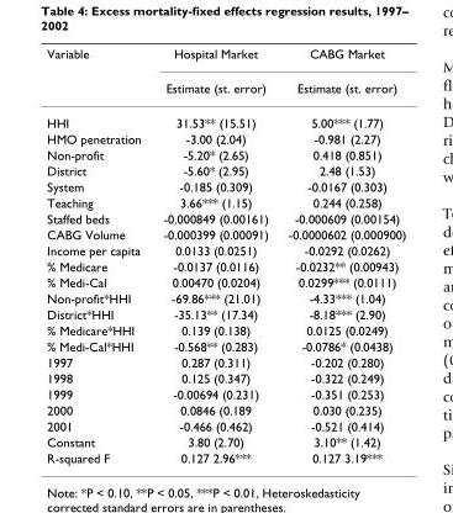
<table><thead><tr><td rowspan="2">Variable</td><td rowspan="2">Hospital Market Estimate (st. error)</td><td rowspan="2">CABG Market Estimate (st. error)</td></tr><tr></tr></thead><tbody><tr><td>HHI</td><td>31.53** (15.51)</td><td>5.00*** (1.77)</td></tr><tr><td>HMO penetration</td><td>-3.00 (2.04)</td><td>-0.981 (2.27)</td></tr><tr><td>Non-profit</td><td>-5.20* (2.65)</td><td>0.418 (0.851)</td></tr><tr><td>District</td><td>-5.60* (2.95)</td><td>2.48 (1.53)</td></tr><tr><td>System</td><td>-0.185 (0.309)</td><td>-0.0167 (0.303)</td></tr><tr><td>Teaching</td><td>3.66*** (1.15)</td><td>0.244 (0.258)</td></tr><tr><td>Staffed beds</td><td>-0.000849 (0.00161)</td><td>-0.000609 (0.00154)</td></tr><tr><td>CABG Volume</td><td>-0.000399 (0.00091)</td><td>-0.0000602 (0.000900)</td></tr><tr><td>Income per capita</td><td>0.0133 (0.0251)</td><td>-0.0292 (0.0262)</td></tr><tr><td>% Medicare</td><td>-0.0137 (0.0116)</td><td>-0.0232** (0.00943)</td></tr><tr><td>% Medi-Cal</td><td>0.00470 (0.0204)</td><td>0.0299*** (0.0111)</td></tr><tr><td>Non-profit*HHI</td><td>-69.86*** (21.01)</td><td>-4.33*** (1.04)</td></tr><tr><td>District*HHI</td><td>-35.13** (17.34)</td><td>-8.18*** (2.90)</td></tr><tr><td>% Medicare*HHI</td><td>0.139 (0.138)</td><td>0.0125 (0.0249)</td></tr><tr><td>% Medi-Cal*HHI</td><td>-0.568** (0.283)</td><td>-0.0786* (0.0438)</td></tr><tr><td>1997</td><td>0.287 (0.311)</td><td>-0.202 (0.280)</td></tr><tr><td>1998</td><td>0.125 (0.347)</td><td>-0.322 (0.249)</td></tr><tr><td>1999</td><td>-0.00694 (0.231)</td><td>-0.351 (0.253)</td></tr><tr><td>2000</td><td>0.0846 (0.189</td><td>0.030 (0.235)</td></tr><tr><td>2001</td><td>-0.466 (0.462)</td><td>-0.521 (0.414)</td></tr><tr><td>Constant</td><td>3.80 (2.70)</td><td>3.10** (1.42)</td></tr><tr><td>R-squared F</td><td>0.127 2.96***</td><td>0.127 3.19***</td></tr></tbody></table>